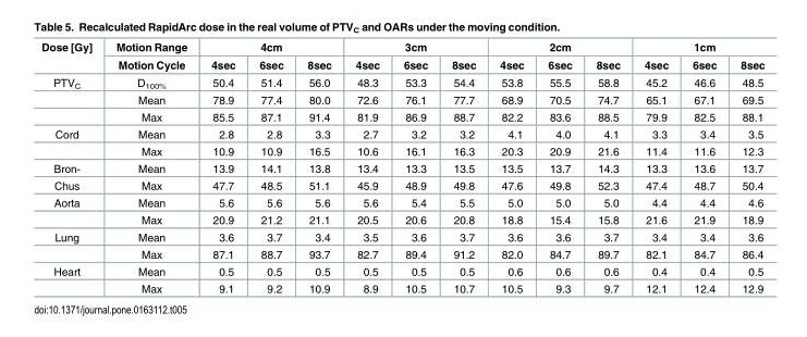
<table><thead><tr><td rowspan="2">Dose [Gy]</td><td rowspan="2">Motion Range Motion Cycle</td><td colspan="3">4cm</td><td colspan="3">3cm</td><td colspan="3">2cm</td><td colspan="3">1cm</td></tr><tr><td>4sec</td><td>6sec</td><td>8sec</td><td>4sec</td><td>6sec</td><td>8sec</td><td>4sec</td><td>6sec</td><td>8sec</td><td>4sec</td><td>6sec</td><td>8sec</td></tr></thead><tbody><tr><td rowspan="3">PTV<sub>C</sub></td><td>D<sub>100%</sub></td><td>50.4</td><td>51.4</td><td>56.0</td><td>48.3</td><td>53.3</td><td>54.4</td><td>53.8</td><td>55.5</td><td>58.8</td><td>45.2</td><td>46.6</td><td>48.5</td></tr><tr><td>Mean</td><td>78.9</td><td>77.4</td><td>80.0</td><td>72.6</td><td>76.1</td><td>77.7</td><td>68.9</td><td>70.5</td><td>74.7</td><td>65.1</td><td>67.1</td><td>69.5</td></tr><tr><td>Max</td><td>85.5</td><td>87.1</td><td>91.4</td><td>81.9</td><td>86.9</td><td>88.7</td><td>82.2</td><td>83.6</td><td>88.5</td><td>79.9</td><td>82.5</td><td>88.1</td></tr><tr><td rowspan="2">Cord</td><td>Mean</td><td>2.8</td><td>2.8</td><td>3.3</td><td>2.7</td><td>3.2</td><td>3.2</td><td>4.1</td><td>4.0</td><td>4.1</td><td>3.3</td><td>3.4</td><td>3.5</td></tr><tr><td>Max</td><td>10.9</td><td>10.9</td><td>16.5</td><td>10.6</td><td>16.1</td><td>16.3</td><td>20.3</td><td>20.9</td><td>21.6</td><td>11.4</td><td>11.6</td><td>12.3</td></tr><tr><td>Bron-</td><td>Mean</td><td>13.9</td><td>14.1</td><td>13.8</td><td>13.4</td><td>13.3</td><td>13.5</td><td>13.5</td><td>13.7</td><td>14.3</td><td>13.3</td><td>13.6</td><td>13.7</td></tr><tr><td>Chus</td><td>Max</td><td>47.7</td><td>48.5</td><td>51.1</td><td>45.9</td><td>48.9</td><td>49.8</td><td>47.6</td><td>49.8</td><td>52.3</td><td>47.4</td><td>48.7</td><td>50.4</td></tr><tr><td rowspan="2">Aorta</td><td>Mean</td><td>5.6</td><td>5.6</td><td>5.6</td><td>5.6</td><td>5.4</td><td>5.5</td><td>5.0</td><td>5.0</td><td>5.0</td><td>4.4</td><td>4.4</td><td>4.6</td></tr><tr><td>Max</td><td>20.9</td><td>21.2</td><td>21.1</td><td>20.5</td><td>20.6</td><td>20.8</td><td>18.8</td><td>15.4</td><td>15.8</td><td>21.6</td><td>21.9</td><td>18.9</td></tr><tr><td rowspan="2">Lung</td><td>Mean</td><td>3.6</td><td>3.7</td><td>3.4</td><td>3.5</td><td>3.6</td><td>3.7</td><td>3.6</td><td>3.6</td><td>3.7</td><td>3.4</td><td>3.4</td><td>3.6</td></tr><tr><td>Max</td><td>87.1</td><td>88.7</td><td>93.7</td><td>82.7</td><td>89.4</td><td>91.2</td><td>82.0</td><td>84.7</td><td>89.7</td><td>82.1</td><td>84.7</td><td>86.4</td></tr><tr><td rowspan="2">Heart</td><td>Mean</td><td>0.5</td><td>0.5</td><td>0.5</td><td>0.5</td><td>0.5</td><td>0.5</td><td>0.6</td><td>0.6</td><td>0.6</td><td>0.4</td><td>0.4</td><td>0.5</td></tr><tr><td>Max</td><td>9.1</td><td>9.2</td><td>10.9</td><td>8.9</td><td>10.5</td><td>10.7</td><td>10.5</td><td>9.3</td><td>9.7</td><td>12.1</td><td>12.4</td><td>12.9</td></tr></tbody></table>